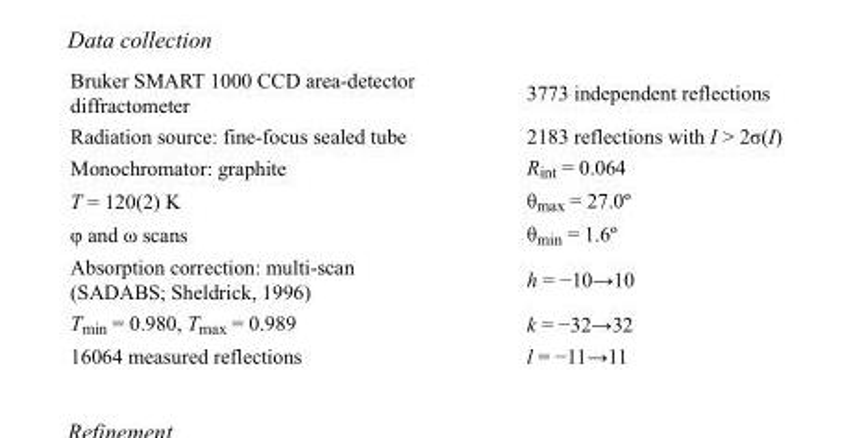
<table><tbody><tr><td>Bruker SMART 1000 CCD area-detector diffractometer</td><td>3773 independent reflections</td></tr><tr><td>Radiation source: fine-focus sealed tube</td><td>2183 reflections with I &gt; 2σ(I)</td></tr><tr><td>Monochromator: graphite</td><td>R<sub>int</sub> = 0.064</td></tr><tr><td>T = 120(2) K</td><td>θ<sub>max</sub> = 27.0º</td></tr><tr><td>φ and ω scans</td><td>θ<sub>min</sub> = 1.6º</td></tr><tr><td>Absorption correction: multi-scan (SADABS; Sheldrick, 1996)</td><td>h = −10→10</td></tr><tr><td>T<sub>min</sub> = 0.980, T<sub>max</sub> = 0.989</td><td>k = −32→32</td></tr><tr><td>16064 measured reflections</td><td>l = −11→11</td></tr></tbody></table>